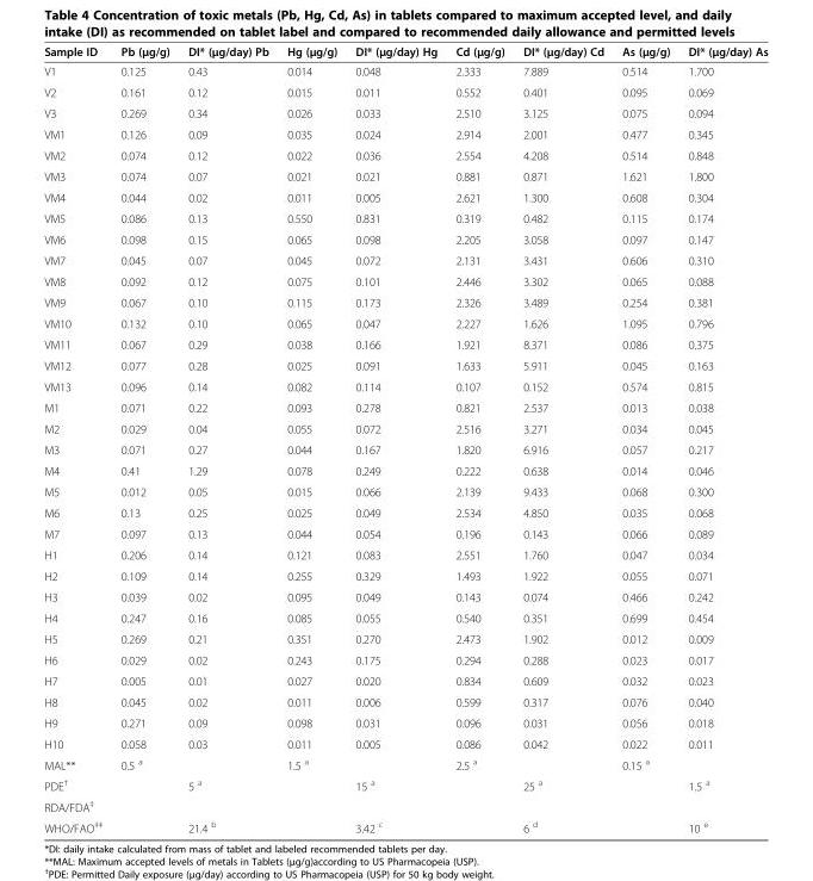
<table><thead><tr><td>Sample ID</td><td>Pb (μg/g)</td><td>DI* (μg/day) Pb</td><td>Hg (μg/g)</td><td>DI* (μg/day) Hg</td><td>Cd (μg/g)</td><td>DI* (μg/day) Cd</td><td>As (μg/g)</td><td>DI* (μg/day) As</td></tr></thead><tbody><tr><td>V1</td><td>0.125</td><td>0.43</td><td>0.014</td><td>0.048</td><td>2.333</td><td>7.889</td><td>0.514</td><td>1.700</td></tr><tr><td>V2</td><td>0.161</td><td>0.12</td><td>0.015</td><td>0.011</td><td>0.552</td><td>0.401</td><td>0.095</td><td>0.069</td></tr><tr><td>V3</td><td>0.269</td><td>0.34</td><td>0.026</td><td>0.033</td><td>2.510</td><td>3.125</td><td>0.075</td><td>0.094</td></tr><tr><td>VM1</td><td>0.126</td><td>0.09</td><td>0.035</td><td>0.024</td><td>2.914</td><td>2.001</td><td>0.477</td><td>0.345</td></tr><tr><td>VM2</td><td>0.074</td><td>0.12</td><td>0.022</td><td>0.036</td><td>2.554</td><td>4.208</td><td>0.514</td><td>0.848</td></tr><tr><td>VM3</td><td>0.074</td><td>0.07</td><td>0.021</td><td>0.021</td><td>0.881</td><td>0.871</td><td>1.621</td><td>1.800</td></tr><tr><td>VM4</td><td>0.044</td><td>0.02</td><td>0.011</td><td>0.005</td><td>2.621</td><td>1.300</td><td>0.608</td><td>0.304</td></tr><tr><td>VM5</td><td>0.086</td><td>0.13</td><td>0.550</td><td>0.831</td><td>0.319</td><td>0.482</td><td>0.115</td><td>0.174</td></tr><tr><td>VM6</td><td>0.098</td><td>0.15</td><td>0.065</td><td>0.098</td><td>2.205</td><td>3.058</td><td>0.097</td><td>0.147</td></tr><tr><td>VM7</td><td>0.045</td><td>0.07</td><td>0.045</td><td>0.072</td><td>2.131</td><td>3.431</td><td>0.606</td><td>0.310</td></tr><tr><td>VM8</td><td>0.092</td><td>0.12</td><td>0.075</td><td>0.101</td><td>2.446</td><td>3.302</td><td>0.065</td><td>0.088</td></tr><tr><td>VM9</td><td>0.067</td><td>0.10</td><td>0.115</td><td>0.173</td><td>2.326</td><td>3.489</td><td>0.254</td><td>0.381</td></tr><tr><td>VM10</td><td>0.132</td><td>0.10</td><td>0.065</td><td>0.047</td><td>2.227</td><td>1.626</td><td>1.095</td><td>0.796</td></tr><tr><td>VM11</td><td>0.067</td><td>0.29</td><td>0.038</td><td>0.166</td><td>1.921</td><td>8.371</td><td>0.086</td><td>0.375</td></tr><tr><td>VM12</td><td>0.077</td><td>0.28</td><td>0.025</td><td>0.091</td><td>1.633</td><td>5.911</td><td>0.045</td><td>0.163</td></tr><tr><td>VM13</td><td>0.096</td><td>0.14</td><td>0.082</td><td>0.114</td><td>0.107</td><td>0.152</td><td>0.574</td><td>0.815</td></tr><tr><td>M1</td><td>0.071</td><td>0.22</td><td>0.093</td><td>0.278</td><td>0.821</td><td>2.537</td><td>0.013</td><td>0.038</td></tr><tr><td>M2</td><td>0.029</td><td>0.04</td><td>0.055</td><td>0.072</td><td>2.516</td><td>3.271</td><td>0.034</td><td>0.045</td></tr><tr><td>M3</td><td>0.071</td><td>0.27</td><td>0.044</td><td>0.167</td><td>1.820</td><td>6.916</td><td>0.057</td><td>0.217</td></tr><tr><td>M4</td><td>0.41</td><td>1.29</td><td>0.078</td><td>0.249</td><td>0.222</td><td>0.638</td><td>0.014</td><td>0.046</td></tr><tr><td>M5</td><td>0.012</td><td>0.05</td><td>0.015</td><td>0.066</td><td>2.139</td><td>9.433</td><td>0.068</td><td>0.300</td></tr><tr><td>M6</td><td>0.13</td><td>0.25</td><td>0.025</td><td>0.049</td><td>2.534</td><td>4.850</td><td>0.035</td><td>0.068</td></tr><tr><td>M7</td><td>0.097</td><td>0.13</td><td>0.044</td><td>0.054</td><td>0.196</td><td>0.143</td><td>0.066</td><td>0.089</td></tr><tr><td>H1</td><td>0.206</td><td>0.14</td><td>0.121</td><td>0.083</td><td>2.551</td><td>1.760</td><td>0.047</td><td>0.034</td></tr><tr><td>H2</td><td>0.109</td><td>0.14</td><td>0.255</td><td>0.329</td><td>1.493</td><td>1.922</td><td>0.055</td><td>0.071</td></tr><tr><td>H3</td><td>0.039</td><td>0.02</td><td>0.095</td><td>0.049</td><td>0.143</td><td>0.074</td><td>0.466</td><td>0.242</td></tr><tr><td>H4</td><td>0.247</td><td>0.16</td><td>0.085</td><td>0.055</td><td>0.540</td><td>0.351</td><td>0.699</td><td>0.454</td></tr><tr><td>H5</td><td>0.269</td><td>0.21</td><td>0.351</td><td>0.270</td><td>2.473</td><td>1.902</td><td>0.012</td><td>0.009</td></tr><tr><td>H6</td><td>0.029</td><td>0.02</td><td>0.243</td><td>0.175</td><td>0.294</td><td>0.288</td><td>0.023</td><td>0.017</td></tr><tr><td>H7</td><td>0.005</td><td>0.01</td><td>0.027</td><td>0.020</td><td>0.834</td><td>0.609</td><td>0.032</td><td>0.023</td></tr><tr><td>H8</td><td>0.045</td><td>0.02</td><td>0.011</td><td>0.006</td><td>0.599</td><td>0.317</td><td>0.076</td><td>0.040</td></tr><tr><td>H9</td><td>0.271</td><td>0.09</td><td>0.098</td><td>0.031</td><td>0.096</td><td>0.031</td><td>0.056</td><td>0.018</td></tr><tr><td>H10</td><td>0.058</td><td>0.03</td><td>0.011</td><td>0.005</td><td>0.086</td><td>0.042</td><td>0.022</td><td>0.011</td></tr><tr><td>MAL**</td><td>0.5 <sup>a</sup></td><td></td><td>1.5 <sup>a</sup></td><td></td><td>2.5 <sup>a</sup></td><td></td><td>0.15 <sup>a</sup></td><td></td></tr><tr><td>PDE<sup>†</sup></td><td></td><td>5 <sup>a</sup></td><td></td><td>15 <sup>a</sup></td><td></td><td>25 <sup>a</sup></td><td></td><td>1.5 <sup>a</sup></td></tr><tr><td colspan="9">RDA/FDA<sup>‡</sup></td></tr><tr><td>WHO/FAO<sup>‡‡</sup></td><td></td><td>21.4 <sup>b</sup></td><td></td><td>3.42 <sup>c</sup></td><td></td><td>6 <sup>d</sup></td><td></td><td>10 <sup>e</sup></td></tr></tbody></table>